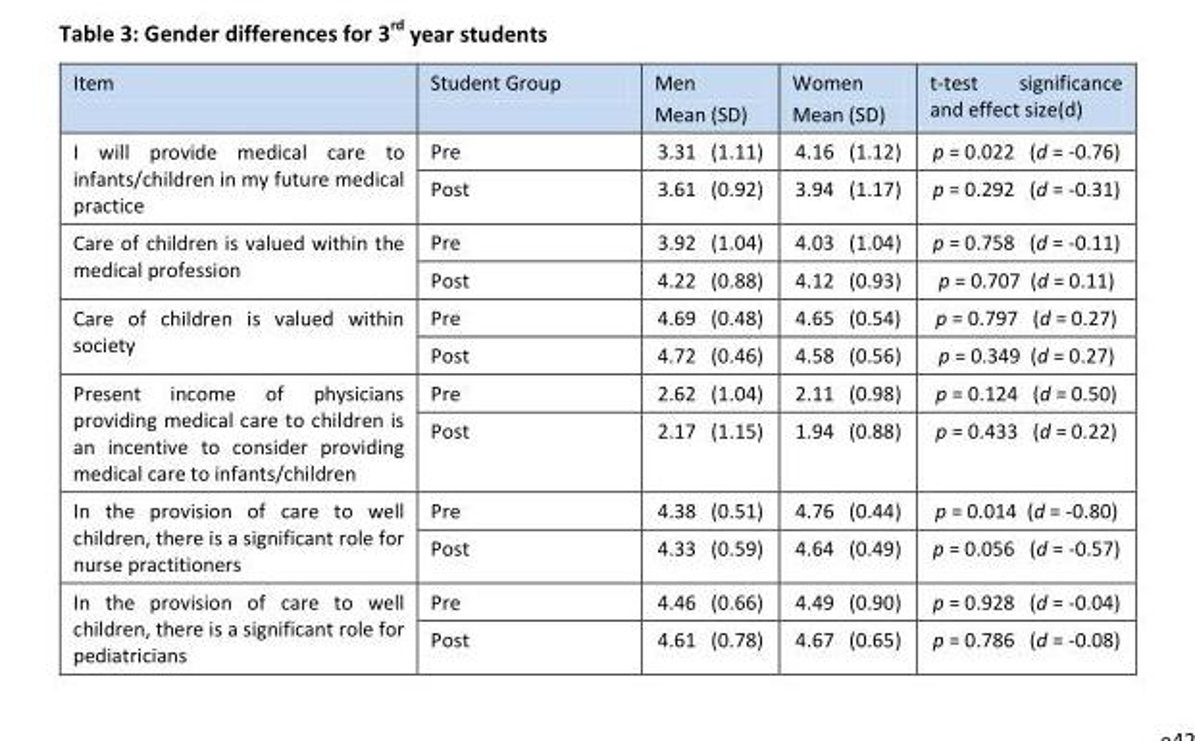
<table><thead><tr><td>Item</td><td>Student Group</td><td>Men Mean (SD)</td><td>Women Mean (SD)</td><td>t-test significance and effect size(d)</td></tr></thead><tbody><tr><td rowspan="2">I will provide medical care to infants/children in my future medical practice</td><td>Pre</td><td>3.31 (1.11)</td><td>4.16 (1.12)</td><td>p = 0.022 (d = -0.76)</td></tr><tr><td>Post</td><td>3.61 (0.92)</td><td>3.94 (1.17)</td><td>p = 0.292 (d = -0.31)</td></tr><tr><td rowspan="2">Care of children is valued within the medical profession</td><td>Pre</td><td>3.92 (1.04)</td><td>4.03 (1.04)</td><td>p = 0.758 (d = -0.11)</td></tr><tr><td>Post</td><td>4.22 (0.88)</td><td>4.12 (0.93)</td><td>p = 0.707 (d = 0.11)</td></tr><tr><td rowspan="2">Care of children is valued within society</td><td>Pre</td><td>4.69 (0.48)</td><td>4.65 (0.54)</td><td>p = 0.797 (d = 0.27)</td></tr><tr><td>Post</td><td>4.72 (0.46)</td><td>4.58 (0.56)</td><td>p = 0.349 (d = 0.27)</td></tr><tr><td rowspan="2">Present income of physicians providing medical care to children is an incentive to consider providing medical care to infants/children</td><td>Pre</td><td>2.62 (1.04)</td><td>2.11 (0.98)</td><td>p = 0.124 (d = 0.50)</td></tr><tr><td>Post</td><td>2.17 (1.15)</td><td>1.94 (0.88)</td><td>p = 0.433 (d = 0.22)</td></tr><tr><td rowspan="2">In the provision of care to well children, there is a significant role for nurse practitioners</td><td>Pre</td><td>4.38 (0.51)</td><td>4.76 (0.44)</td><td>p = 0.014 (d = -0.80)</td></tr><tr><td>Post</td><td>4.33 (0.59)</td><td>4.64 (0.49)</td><td>p = 0.056 (d = -0.57)</td></tr><tr><td rowspan="2">In the provision of care to well children, there is a significant role for pediatricians</td><td>Pre</td><td>4.46 (0.66)</td><td>4.49 (0.90)</td><td>p = 0.928 (d = -0.04)</td></tr><tr><td>Post</td><td>4.61 (0.78)</td><td>4.67 (0.65)</td><td>p = 0.786 (d = -0.08)</td></tr></tbody></table>